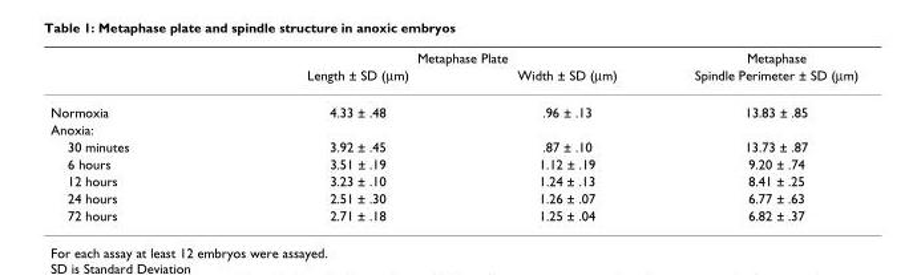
<table><thead><tr><td rowspan="2"></td><td colspan="2">Metaphase Plate</td><td rowspan="2">Metaphase Spindle Perimeter ± SD (µm)</td></tr><tr><td>Length ± SD (µm)</td><td>Width ± SD (µm)</td></tr></thead><tbody><tr><td>Normoxia</td><td>4.33 ± .48</td><td>.96 ± .13</td><td>13.83 ± .85</td></tr><tr><td colspan="4">Anoxia:</td></tr><tr><td>30 minutes</td><td>3.92 ± .45</td><td>.87 ± .10</td><td>13.73 ± .87</td></tr><tr><td>6 hours</td><td>3.51 ± .19</td><td>1.12 ± .19</td><td>9.20 ± .74</td></tr><tr><td>12 hours</td><td>3.23 ± .10</td><td>1.24 ± .13</td><td>8.41 ± .25</td></tr><tr><td>24 hours</td><td>2.51 ± .30</td><td>1.26 ± .07</td><td>6.77 ± .63</td></tr><tr><td>72 hours</td><td>2.71 ± .18</td><td>1.25 ± .04</td><td>6.82 ± .37</td></tr></tbody></table>